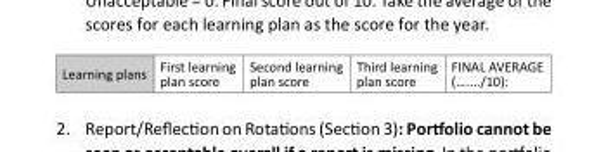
<table><tbody><tr><td>Learning plans</td><td>First learning plan score</td><td>Second learning plan score</td><td>Third learning plan score</td><td>FINAL AVERAGE (…..../10):</td></tr></tbody></table>